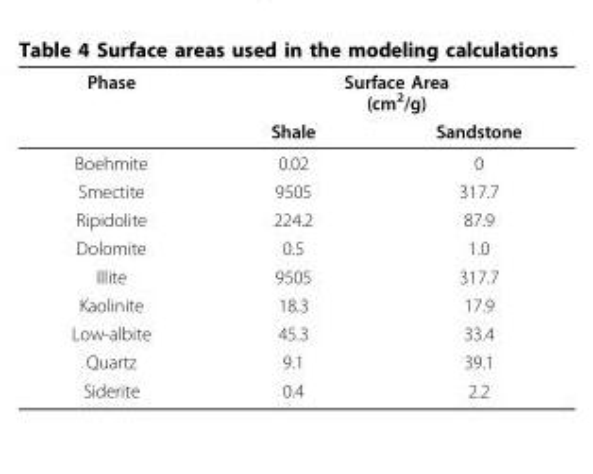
<table><thead><tr><td rowspan="2">Phase</td><td colspan="2">Surface Area (cm<sup>2</sup>/g)</td></tr><tr><td>Shale</td><td>Sandstone</td></tr></thead><tbody><tr><td>Boehmite</td><td>0.02</td><td>0</td></tr><tr><td>Smectite</td><td>9505</td><td>317.7</td></tr><tr><td>Ripidolite</td><td>224.2</td><td>87.9</td></tr><tr><td>Dolomite</td><td>0.5</td><td>1.0</td></tr><tr><td>Illite</td><td>9505</td><td>317.7</td></tr><tr><td>Kaolinite</td><td>18.3</td><td>17.9</td></tr><tr><td>Low-albite</td><td>45.3</td><td>33.4</td></tr><tr><td>Quartz</td><td>9.1</td><td>39.1</td></tr><tr><td>Siderite</td><td>0.4</td><td>2.2</td></tr></tbody></table>